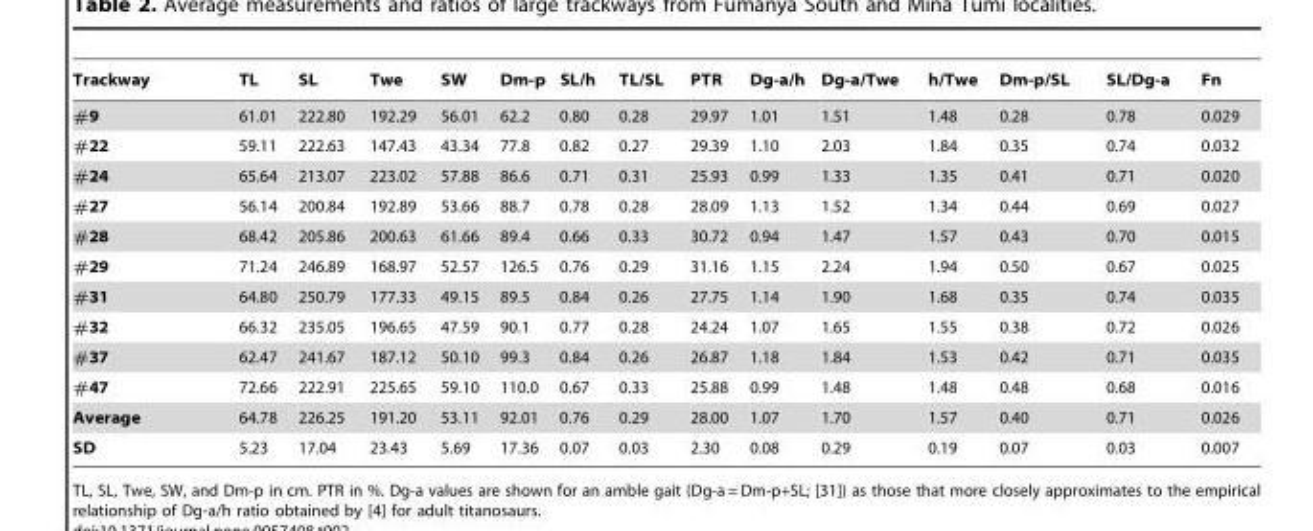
<table><thead><tr><td>Trackway</td><td>TL</td><td>SL</td><td>Twe</td><td>SW</td><td>Dm-p</td><td>SL/h</td><td>TL/SL</td><td>PTR</td><td>Dg-a/h</td><td>Dg-a/Twe</td><td>h/Twe</td><td>Dm-p/SL</td><td>SL/Dg-a</td><td>Fn</td></tr></thead><tbody><tr><td>#9</td><td>61.01</td><td>222.80</td><td>192.29</td><td>56.01</td><td>62.2</td><td>0.80</td><td>0.28</td><td>29.97</td><td>1.01</td><td>1.51</td><td>1.48</td><td>0.28</td><td>0.78</td><td>0.029</td></tr><tr><td>#22</td><td>59.11</td><td>222.63</td><td>147.43</td><td>43.34</td><td>77.8</td><td>0.82</td><td>0.27</td><td>29.39</td><td>1.10</td><td>2.03</td><td>1.84</td><td>0.35</td><td>0.74</td><td>0.032</td></tr><tr><td>#24</td><td>65.64</td><td>213.07</td><td>223.02</td><td>57.88</td><td>86.6</td><td>0.71</td><td>0.31</td><td>25.93</td><td>0.99</td><td>1.33</td><td>1.35</td><td>0.41</td><td>0.71</td><td>0.020</td></tr><tr><td>#27</td><td>56.14</td><td>200.84</td><td>192.89</td><td>53.66</td><td>88.7</td><td>0.78</td><td>0.28</td><td>28.09</td><td>1.13</td><td>1.52</td><td>1.34</td><td>0.44</td><td>0.69</td><td>0.027</td></tr><tr><td>#28</td><td>68.42</td><td>205.86</td><td>200.63</td><td>61.66</td><td>89.4</td><td>0.66</td><td>0.33</td><td>30.72</td><td>0.94</td><td>1.47</td><td>1.57</td><td>0.43</td><td>0.70</td><td>0.015</td></tr><tr><td>#29</td><td>71.24</td><td>246.89</td><td>168.97</td><td>52.57</td><td>126.5</td><td>0.76</td><td>0.29</td><td>31.16</td><td>1.15</td><td>2.24</td><td>1.94</td><td>0.50</td><td>0.67</td><td>0.025</td></tr><tr><td>#31</td><td>64.80</td><td>250.79</td><td>177.33</td><td>49.15</td><td>89.5</td><td>0.84</td><td>0.26</td><td>27.75</td><td>1.14</td><td>1.90</td><td>1.68</td><td>0.35</td><td>0.74</td><td>0.035</td></tr><tr><td>#32</td><td>66.32</td><td>235.05</td><td>196.65</td><td>47.59</td><td>90.1</td><td>0.77</td><td>0.28</td><td>24.24</td><td>1.07</td><td>1.65</td><td>1.55</td><td>0.38</td><td>0.72</td><td>0.026</td></tr><tr><td>#37</td><td>62.47</td><td>241.67</td><td>187.12</td><td>50.10</td><td>99.3</td><td>0.84</td><td>0.26</td><td>26.87</td><td>1.18</td><td>1.84</td><td>1.53</td><td>0.42</td><td>0.71</td><td>0.035</td></tr><tr><td>#47</td><td>72.66</td><td>222.91</td><td>225.65</td><td>59.10</td><td>110.0</td><td>0.67</td><td>0.33</td><td>25.88</td><td>0.99</td><td>1.48</td><td>1.48</td><td>0.48</td><td>0.68</td><td>0.016</td></tr><tr><td>Average</td><td>64.78</td><td>226.25</td><td>191.20</td><td>53.11</td><td>92.01</td><td>0.76</td><td>0.29</td><td>28.00</td><td>1.07</td><td>1.70</td><td>1.57</td><td>0.40</td><td>0.71</td><td>0.026</td></tr><tr><td>SD</td><td>5.23</td><td>17.04</td><td>23.43</td><td>5.69</td><td>17.36</td><td>0.07</td><td>0.03</td><td>2.30</td><td>0.08</td><td>0.29</td><td>0.19</td><td>0.07</td><td>0.03</td><td>0.007</td></tr></tbody></table>